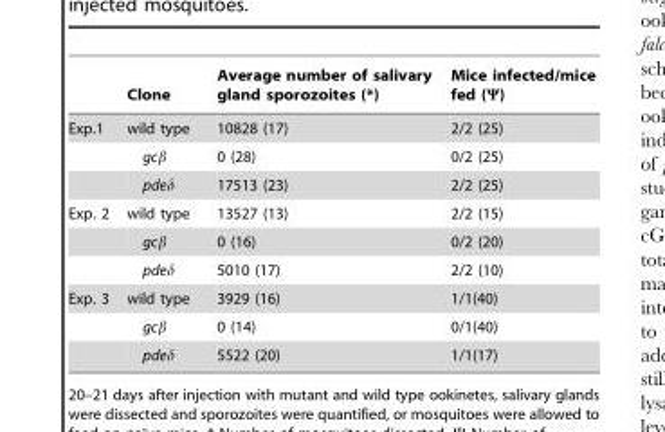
<table><thead><tr><td></td><td>Clone</td><td>Average number of salivary gland sporozoites (*)</td><td>Mice infected/mice fed (Ψ)</td></tr></thead><tbody><tr><td rowspan="3">Exp.1</td><td>wild type</td><td>10828 (17)</td><td>2/2 (25)</td></tr><tr><td>gcβ</td><td>0 (28)</td><td>0/2 (25)</td></tr><tr><td>pdeδ</td><td>17513 (23)</td><td>2/2 (25)</td></tr><tr><td rowspan="3">Exp. 2</td><td>wild type</td><td>13527 (13)</td><td>2/2 (15)</td></tr><tr><td>gcβ</td><td>0 (16)</td><td>0/2 (20)</td></tr><tr><td>pdeδ</td><td>5010 (17)</td><td>2/2 (10)</td></tr><tr><td rowspan="3">Exp. 3</td><td>wild type</td><td>3929 (16)</td><td>1/1(40)</td></tr><tr><td>gcβ</td><td>0 (14)</td><td>0/1(40)</td></tr><tr><td>pdeδ</td><td>5522 (20)</td><td>1/1(17)</td></tr></tbody></table>